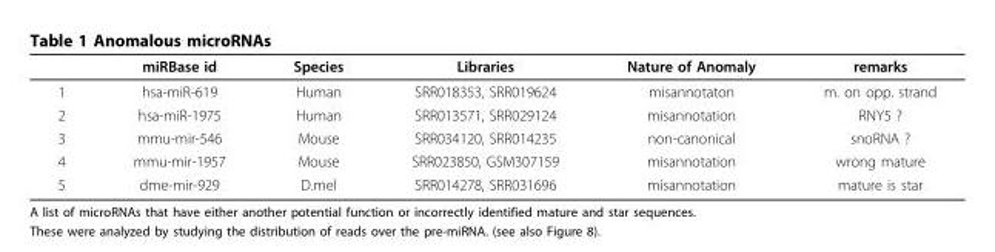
<table><thead><tr><td></td><td>miRBase id</td><td>Species</td><td>Libraries</td><td>Nature of Anomaly</td><td>remarks</td></tr></thead><tbody><tr><td>1</td><td>hsa-miR-619</td><td>Human</td><td>SRR018353, SRR019624</td><td>misannotaton</td><td>m. on opp. strand</td></tr><tr><td>2</td><td>hsa-miR-1975</td><td>Human</td><td>SRR013571, SRR029124</td><td>misannotation</td><td>RNY5 ?</td></tr><tr><td>3</td><td>mmu-mir-546</td><td>Mouse</td><td>SRR034120, SRR014235</td><td>non-canonical</td><td>snoRNA ?</td></tr><tr><td>4</td><td>mmu-mir-1957</td><td>Mouse</td><td>SRR023850, GSM307159</td><td>misannotation</td><td>wrong mature</td></tr><tr><td>5</td><td>dme-mir-929</td><td>D.mel</td><td>SRR014278, SRR031696</td><td>misannotation</td><td>mature is star</td></tr></tbody></table>